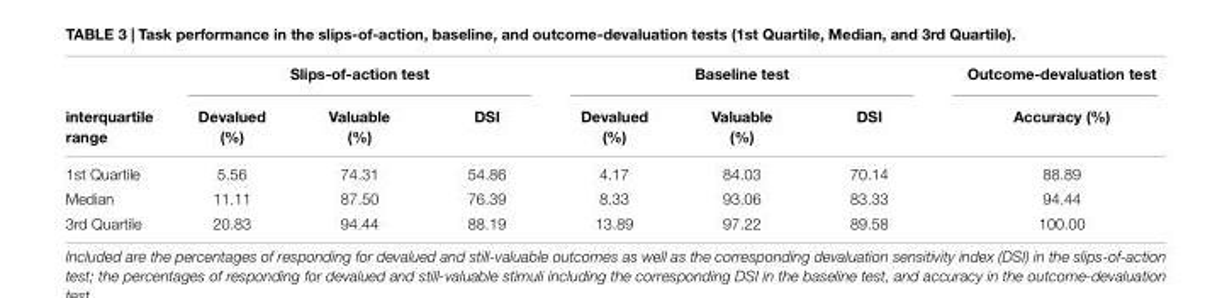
<table><thead><tr><td rowspan="2">interquartile range</td><td colspan="3">Slips-of-action test</td><td colspan="3">Baseline test</td><td rowspan="2">Outcome-devaluation test Accuracy (%)</td></tr><tr><td>Devalued (%)</td><td>Valuable (%)</td><td>DSI</td><td>Devalued (%)</td><td>Valuable (%)</td><td>DSI</td></tr></thead><tbody><tr><td>1st Quartile</td><td>5.56</td><td>74.31</td><td>54.86</td><td>4.17</td><td>84.03</td><td>70.14</td><td>88.89</td></tr><tr><td>Median</td><td>11.11</td><td>87.50</td><td>76.39</td><td>8.33</td><td>93.06</td><td>83.33</td><td>94.44</td></tr><tr><td>3rd Quartile</td><td>20.83</td><td>94.44</td><td>88.19</td><td>13.89</td><td>97.22</td><td>89.58</td><td>100.00</td></tr></tbody></table>